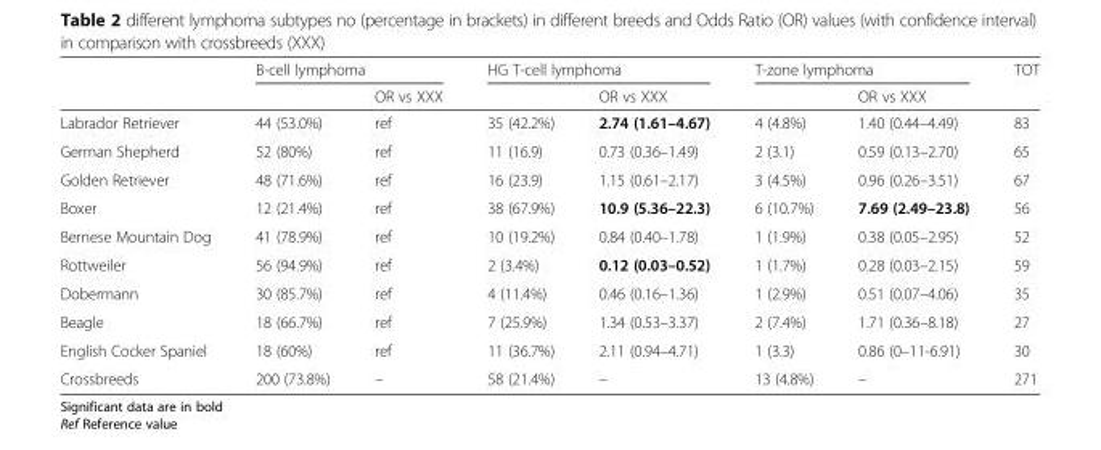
<table><thead><tr><td rowspan="2"></td><td colspan="2">B-cell lymphoma</td><td colspan="2">HG T-cell lymphoma</td><td colspan="2">T-zone lymphoma</td><td rowspan="2">TOT</td></tr><tr><td></td><td>OR vs XXX</td><td></td><td>OR vs XXX</td><td></td><td>OR vs XXX</td></tr></thead><tbody><tr><td>Labrador Retriever</td><td>44 (53.0%)</td><td>ref</td><td>35 (42.2%)</td><td>2.74 (1.61–4.67)</td><td>4 (4.8%)</td><td>1.40 (0.44–4.49)</td><td>83</td></tr><tr><td>German Shepherd</td><td>52 (80%)</td><td>ref</td><td>11 (16.9)</td><td>0.73 (0.36–1.49)</td><td>2 (3.1)</td><td>0.59 (0.13–2.70)</td><td>65</td></tr><tr><td>Golden Retriever</td><td>48 (71.6%)</td><td>ref</td><td>16 (23.9)</td><td>1.15 (0.61–2.17)</td><td>3 (4.5%)</td><td>0.96 (0.26–3.51)</td><td>67</td></tr><tr><td>Boxer</td><td>12 (21.4%)</td><td>ref</td><td>38 (67.9%)</td><td>10.9 (5.36–22.3)</td><td>6 (10.7%)</td><td>7.69 (2.49–23.8)</td><td>56</td></tr><tr><td>Bernese Mountain Dog</td><td>41 (78.9%)</td><td>ref</td><td>10 (19.2%)</td><td>0.84 (0.40–1.78)</td><td>1 (1.9%)</td><td>0.38 (0.05–2.95)</td><td>52</td></tr><tr><td>Rottweiler</td><td>56 (94.9%)</td><td>ref</td><td>2 (3.4%)</td><td>0.12 (0.03–0.52)</td><td>1 (1.7%)</td><td>0.28 (0.03–2.15)</td><td>59</td></tr><tr><td>Dobermann</td><td>30 (85.7%)</td><td>ref</td><td>4 (11.4%)</td><td>0.46 (0.16–1.36)</td><td>1 (2.9%)</td><td>0.51 (0.07–4.06)</td><td>35</td></tr><tr><td>Beagle</td><td>18 (66.7%)</td><td>ref</td><td>7 (25.9%)</td><td>1.34 (0.53–3.37)</td><td>2 (7.4%)</td><td>1.71 (0.36–8.18)</td><td>27</td></tr><tr><td>English Cocker Spaniel</td><td>18 (60%)</td><td>ref</td><td>11 (36.7%)</td><td>2.11 (0.94–4.71)</td><td>1 (3.3)</td><td>0.86 (0–11-6.91)</td><td>30</td></tr><tr><td>Crossbreeds</td><td>200 (73.8%)</td><td>–</td><td>58 (21.4%)</td><td>–</td><td>13 (4.8%)</td><td>–</td><td>271</td></tr></tbody></table>